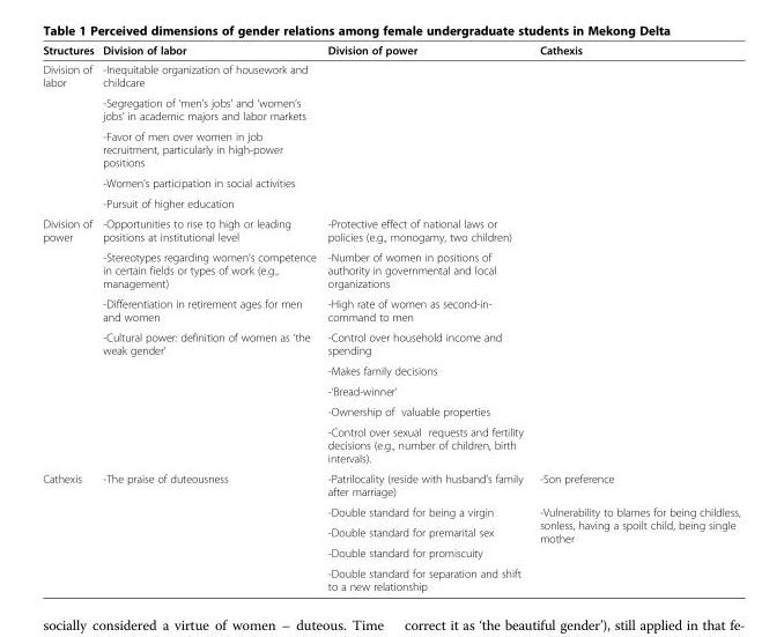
<table><thead><tr><td>Structures</td><td>Division of labor</td><td>Division of power</td><td>Cathexis</td></tr></thead><tbody><tr><td rowspan="5">Division of labor</td><td>-Inequitable organization of housework and childcare</td><td rowspan="5"></td><td rowspan="5"></td></tr><tr><td>-Segregation of ‘men’s jobs’ and ‘women’s jobs’ in academic majors and labor markets</td></tr><tr><td>-Favor of men over women in job recruitment, particularly in high-power positions</td></tr><tr><td>-Women’s participation in social activities</td></tr><tr><td>-Pursuit of higher education</td></tr><tr><td rowspan="8">Division of power</td><td>-Opportunities to rise to high or leading positions at institutional level</td><td>-Protective effect of national laws or policies (e.g., monogamy, two children)</td><td rowspan="8"></td></tr><tr><td>-Stereotypes regarding women’s competence in certain fields or types of work (e.g., management)</td><td>-Number of women in positions of authority in governmental and local organizations</td></tr><tr><td>-Differentiation in retirement ages for men and women</td><td>-High rate of women as second-in- command to men</td></tr><tr><td>-Cultural power: definition of women as ‘the weak gender’</td><td>-Control over household income and spending</td></tr><tr><td rowspan="4"></td><td>-Makes family decisions</td></tr><tr><td>-‘Bread-winner’</td></tr><tr><td>-Ownership of valuable properties</td></tr><tr><td>-Control over sexual requests and fertility decisions (e.g., number of children, birth intervals).</td></tr><tr><td rowspan="5">Cathexis</td><td rowspan="5">-The praise of duteousness</td><td>-Patrilocality (reside with husband’s family after marriage)</td><td>-Son preference</td></tr><tr><td>-Double standard for being a virgin</td><td rowspan="4">-Vulnerability to blames for being childless, sonless, having a spoilt child, being single mother</td></tr><tr><td>-Double standard for premarital sex</td></tr><tr><td>-Double standard for promiscuity</td></tr><tr><td>-Double standard for separation and shift to a new relationship</td></tr></tbody></table>